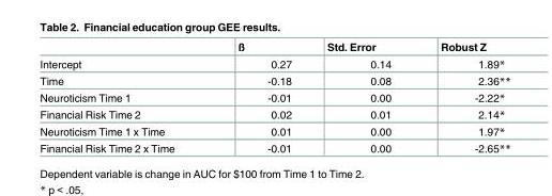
<table><thead><tr><td></td><td>ß</td><td>Std. Error</td><td>Robust Z</td></tr></thead><tbody><tr><td>Intercept</td><td>0.27</td><td>0.14</td><td>1.89*</td></tr><tr><td>Time</td><td>-0.18</td><td>0.08</td><td>2.36**</td></tr><tr><td>Neuroticism Time 1</td><td>-0.01</td><td>0.00</td><td>-2.22*</td></tr><tr><td>Financial Risk Time 2</td><td>0.02</td><td>0.01</td><td>2.14*</td></tr><tr><td>Neuroticism Time 1 x Time</td><td>0.01</td><td>0.00</td><td>1.97*</td></tr><tr><td>Financial Risk Time 2 x Time</td><td>-0.01</td><td>0.00</td><td>-2.65**</td></tr></tbody></table>